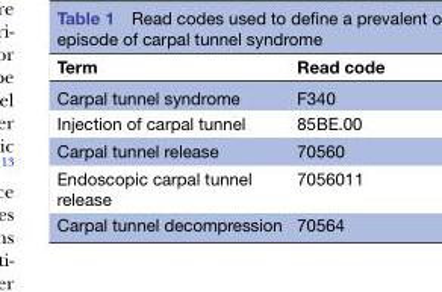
<table><thead><tr><td>Term</td><td>Read code</td></tr></thead><tbody><tr><td>Carpal tunnel syndrome</td><td>F340</td></tr><tr><td>Injection of carpal tunnel</td><td>85BE.00</td></tr><tr><td>Carpal tunnel release</td><td>70560</td></tr><tr><td>Endoscopic carpal tunnel release</td><td>7056011</td></tr><tr><td>Carpal tunnel decompression</td><td>70564</td></tr></tbody></table>